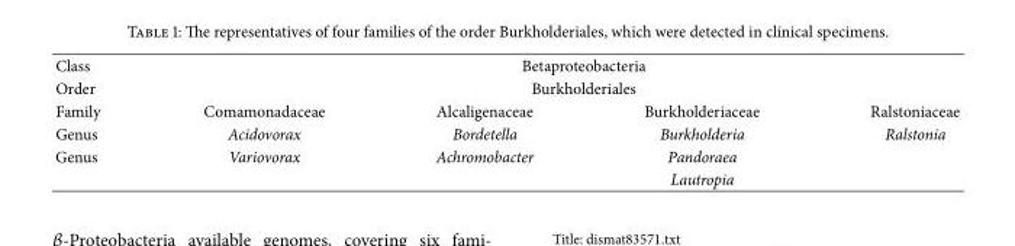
<table><tbody><tr><td>Class</td><td colspan="4">Betaproteobacteria</td></tr><tr><td>Order</td><td colspan="4">Burkholderiales</td></tr><tr><td>Family</td><td>Comamonadaceae</td><td>Alcaligenaceae</td><td>Burkholderiaceae</td><td>Ralstoniaceae</td></tr><tr><td>Genus</td><td>Acidovorax</td><td>Bordetella</td><td>Burkholderia</td><td>Ralstonia</td></tr><tr><td rowspan="2">Genus</td><td>Variovorax</td><td>Achromobacter</td><td>Pandoraea</td><td></td></tr><tr><td></td><td></td><td>Lautropia</td><td></td></tr></tbody></table>